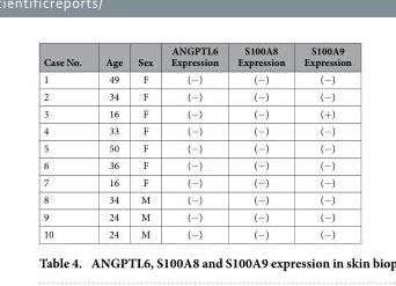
<table><thead><tr><td>Case No.</td><td>Age</td><td>Sex</td><td>ANGPTL6 Expression</td><td>S100A8 Expression</td><td>S100A9 Expression</td></tr></thead><tbody><tr><td>1</td><td>49</td><td>F</td><td>(− )</td><td>(− )</td><td>(− )</td></tr><tr><td>2</td><td>34</td><td>F</td><td>(− )</td><td>(− )</td><td>(− )</td></tr><tr><td>3</td><td>16</td><td>F</td><td>(− )</td><td>(− )</td><td>(+ )</td></tr><tr><td>4</td><td>33</td><td>F</td><td>(− )</td><td>(− )</td><td>(− )</td></tr><tr><td>5</td><td>50</td><td>F</td><td>(− )</td><td>(− )</td><td>(− )</td></tr><tr><td>6</td><td>36</td><td>F</td><td>(− )</td><td>(− )</td><td>(− )</td></tr><tr><td>7</td><td>16</td><td>F</td><td>(− )</td><td>(− )</td><td>(− )</td></tr><tr><td>8</td><td>34</td><td>M</td><td>(− )</td><td>(− )</td><td>(− )</td></tr><tr><td>9</td><td>24</td><td>M</td><td>(− )</td><td>(− )</td><td>(− )</td></tr><tr><td>10</td><td>24</td><td>M</td><td>(− )</td><td>(− )</td><td>(− )</td></tr></tbody></table>